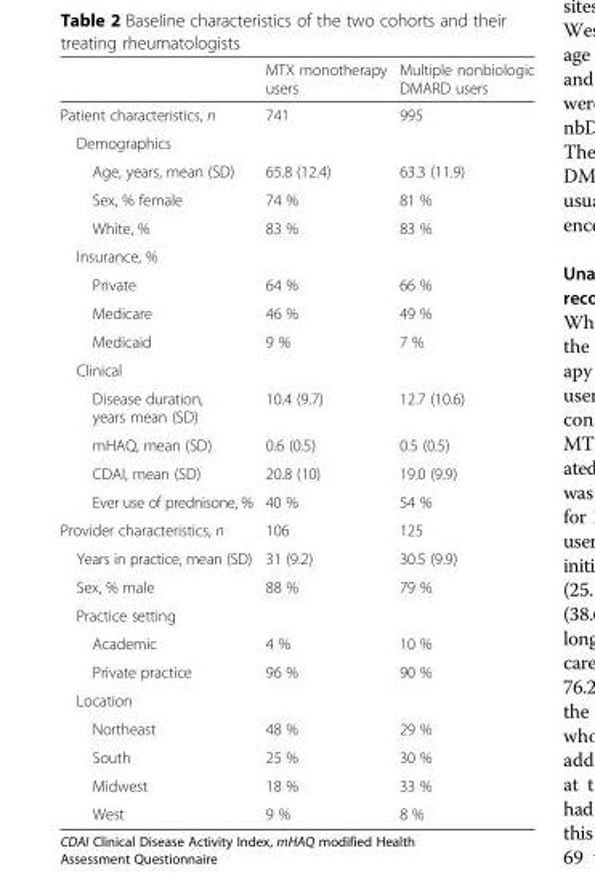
<table><thead><tr><td></td><td>MTX monotherapy users</td><td>Multiple nonbiologic DMARD users</td></tr></thead><tbody><tr><td>Patient characteristics, n</td><td>741</td><td>995</td></tr><tr><td colspan="3">Demographics</td></tr><tr><td>Age, years, mean (SD)</td><td>65.8 (12.4)</td><td>63.3 (11.9)</td></tr><tr><td>Sex, % female</td><td>74 %</td><td>81 %</td></tr><tr><td>White, %</td><td>83 %</td><td>83 %</td></tr><tr><td colspan="3">Insurance, %</td></tr><tr><td>Private</td><td>64 %</td><td>66 %</td></tr><tr><td>Medicare</td><td>46 %</td><td>49 %</td></tr><tr><td>Medicaid</td><td>9 %</td><td>7 %</td></tr><tr><td colspan="3">Clinical</td></tr><tr><td>Disease duration, years mean (SD)</td><td>10.4 (9.7)</td><td>12.7 (10.6)</td></tr><tr><td>mHAQ, mean (SD)</td><td>0.6 (0.5)</td><td>0.5 (0.5)</td></tr><tr><td>CDAI, mean (SD)</td><td>20.8 (10)</td><td>19.0 (9.9)</td></tr><tr><td>Ever use of prednisone, %</td><td>40 %</td><td>54 %</td></tr><tr><td>Provider characteristics, n</td><td>106</td><td>125</td></tr><tr><td>Years in practice, mean (SD)</td><td>31 (9.2)</td><td>30.5 (9.9)</td></tr><tr><td>Sex, % male</td><td>88 %</td><td>79 %</td></tr><tr><td colspan="3">Practice setting</td></tr><tr><td>Academic</td><td>4 %</td><td>10 %</td></tr><tr><td>Private practice</td><td>96 %</td><td>90 %</td></tr><tr><td colspan="3">Location</td></tr><tr><td>Northeast</td><td>48 %</td><td>29 %</td></tr><tr><td>South</td><td>25 %</td><td>30 %</td></tr><tr><td>Midwest</td><td>18 %</td><td>33 %</td></tr><tr><td>West</td><td>9 %</td><td>8 %</td></tr></tbody></table>